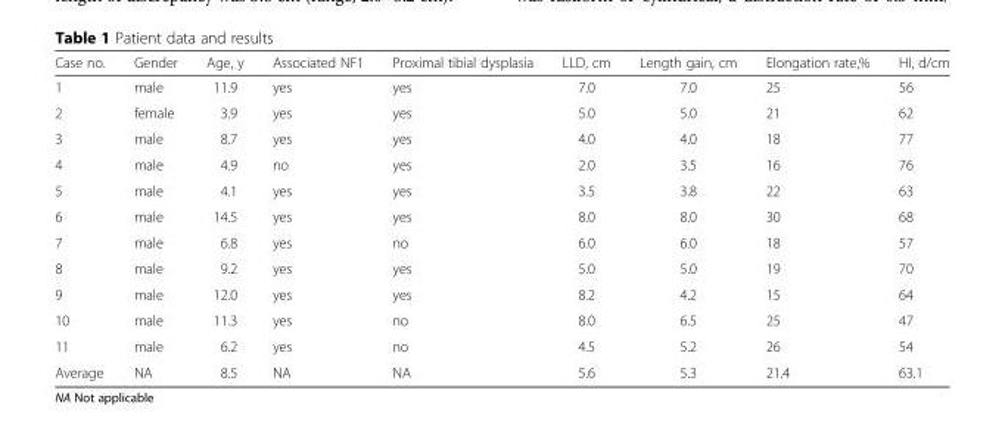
<table><thead><tr><td>Case no.</td><td>Gender</td><td>Age, y</td><td>Associated NF1</td><td>Proximal tibial dysplasia</td><td>LLD, cm</td><td>Length gain, cm</td><td>Elongation rate,%</td><td>HI, d/cm</td></tr></thead><tbody><tr><td>1</td><td>male</td><td>11.9</td><td>yes</td><td>yes</td><td>7.0</td><td>7.0</td><td>25</td><td>56</td></tr><tr><td>2</td><td>female</td><td>3.9</td><td>yes</td><td>yes</td><td>5.0</td><td>5.0</td><td>21</td><td>62</td></tr><tr><td>3</td><td>male</td><td>8.7</td><td>yes</td><td>yes</td><td>4.0</td><td>4.0</td><td>18</td><td>77</td></tr><tr><td>4</td><td>male</td><td>4.9</td><td>no</td><td>yes</td><td>2.0</td><td>3.5</td><td>16</td><td>76</td></tr><tr><td>5</td><td>male</td><td>4.1</td><td>yes</td><td>yes</td><td>3.5</td><td>3.8</td><td>22</td><td>63</td></tr><tr><td>6</td><td>male</td><td>14.5</td><td>yes</td><td>yes</td><td>8.0</td><td>8.0</td><td>30</td><td>68</td></tr><tr><td>7</td><td>male</td><td>6.8</td><td>yes</td><td>no</td><td>6.0</td><td>6.0</td><td>18</td><td>57</td></tr><tr><td>8</td><td>male</td><td>9.2</td><td>yes</td><td>yes</td><td>5.0</td><td>5.0</td><td>19</td><td>70</td></tr><tr><td>9</td><td>male</td><td>12.0</td><td>yes</td><td>yes</td><td>8.2</td><td>4.2</td><td>15</td><td>64</td></tr><tr><td>10</td><td>male</td><td>11.3</td><td>yes</td><td>no</td><td>8.0</td><td>6.5</td><td>25</td><td>47</td></tr><tr><td>11</td><td>male</td><td>6.2</td><td>yes</td><td>no</td><td>4.5</td><td>5.2</td><td>26</td><td>54</td></tr><tr><td>Average</td><td>NA</td><td>8.5</td><td>NA</td><td>NA</td><td>5.6</td><td>5.3</td><td>21.4</td><td>63.1</td></tr></tbody></table>